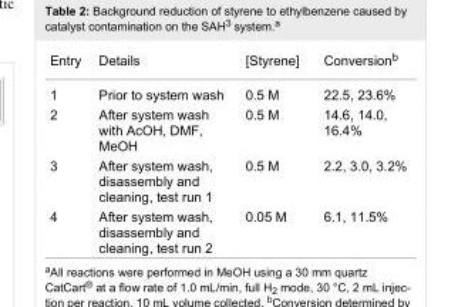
<table><tbody><tr><td>Entry</td><td>Details</td><td>[Styrene]</td><td>Conversion<sup>b</sup></td></tr><tr><td>1</td><td>Prior to system wash</td><td>0.5 M</td><td>22.5, 23.6%</td></tr><tr><td>2</td><td>After system wash with AcOH, DMF, MeOH</td><td>0.5 M</td><td>14.6, 14.0, 16.4%</td></tr><tr><td>3</td><td>After system wash, disassembly and cleaning, test run 1</td><td>0.5 M</td><td>2.2, 3.0, 3.2%</td></tr><tr><td>4</td><td>After system wash, disassembly and cleaning, test run 2</td><td>0.05 M</td><td>6.1, 11.5%</td></tr></tbody></table>